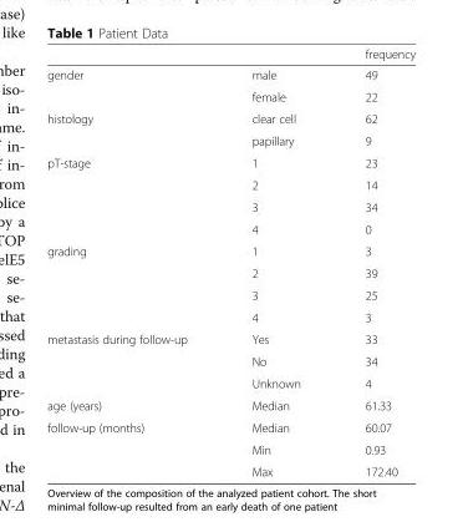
<table><thead><tr><td></td><td></td><td>frequency</td></tr></thead><tbody><tr><td rowspan="2">gender</td><td>male</td><td>49</td></tr><tr><td>female</td><td>22</td></tr><tr><td rowspan="2">histology</td><td>clear cell</td><td>62</td></tr><tr><td>papillary</td><td>9</td></tr><tr><td rowspan="4">pT-stage</td><td>1</td><td>23</td></tr><tr><td>2</td><td>14</td></tr><tr><td>3</td><td>34</td></tr><tr><td>4</td><td>0</td></tr><tr><td rowspan="4">grading</td><td>1</td><td>3</td></tr><tr><td>2</td><td>39</td></tr><tr><td>3</td><td>25</td></tr><tr><td>4</td><td>3</td></tr><tr><td rowspan="3">metastasis during follow-up</td><td>Yes</td><td>33</td></tr><tr><td>No</td><td>34</td></tr><tr><td>Unknown</td><td>4</td></tr><tr><td>age (years)</td><td>Median</td><td>61.33</td></tr><tr><td rowspan="3">follow-up (months)</td><td>Median</td><td>60.07</td></tr><tr><td>Min</td><td>0.93</td></tr><tr><td>Max</td><td>172.40</td></tr></tbody></table>